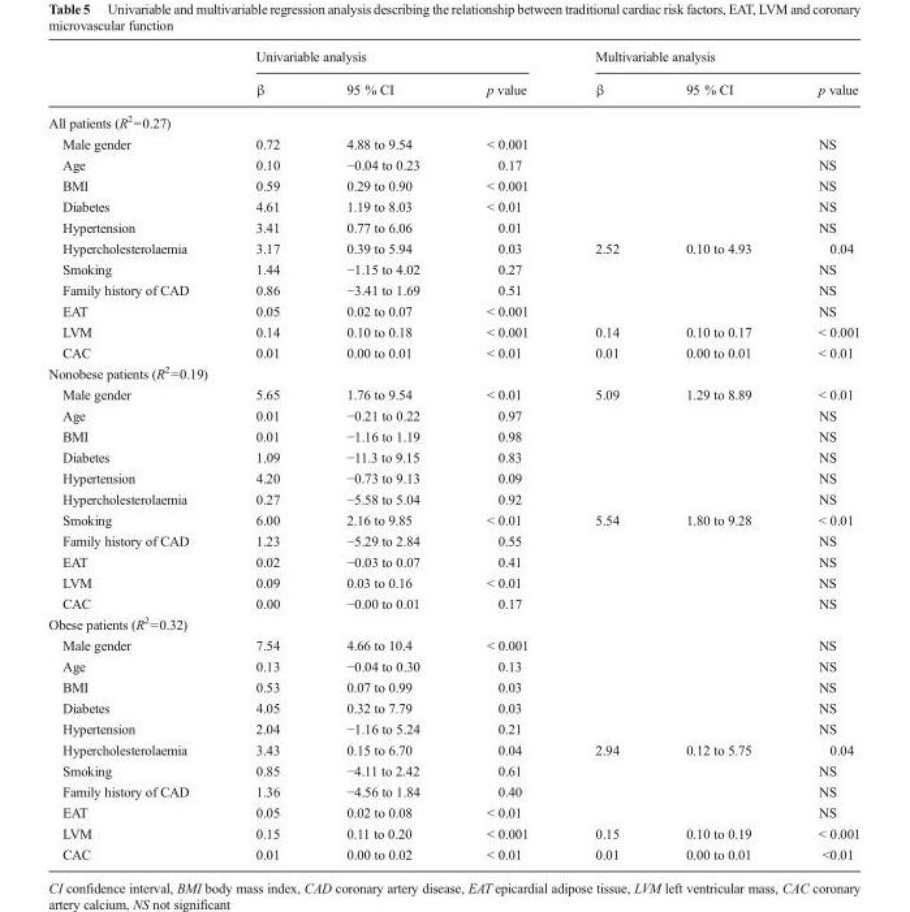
<table><thead><tr><td rowspan="2"></td><td colspan="3">Univariable analysis</td><td colspan="3">Multivariable analysis</td></tr><tr><td>β</td><td>95 % CI</td><td>p value</td><td>β</td><td>95 % CI</td><td>p value</td></tr></thead><tbody><tr><td colspan="7">All patients (R<sup>2</sup>=0.27)</td></tr><tr><td>Male gender</td><td>0.72</td><td>4.88 to 9.54</td><td>&lt; 0.001</td><td></td><td></td><td>NS</td></tr><tr><td>Age</td><td>0.10</td><td>−0.04 to 0.23</td><td>0.17</td><td></td><td></td><td>NS</td></tr><tr><td>BMI</td><td>0.59</td><td>0.29 to 0.90</td><td>&lt; 0.001</td><td></td><td></td><td>NS</td></tr><tr><td>Diabetes</td><td>4.61</td><td>1.19 to 8.03</td><td>&lt; 0.01</td><td></td><td></td><td>NS</td></tr><tr><td>Hypertension</td><td>3.41</td><td>0.77 to 6.06</td><td>0.01</td><td></td><td></td><td>NS</td></tr><tr><td>Hypercholesterolaemia</td><td>3.17</td><td>0.39 to 5.94</td><td>0.03</td><td>2.52</td><td>0.10 to 4.93</td><td>0.04</td></tr><tr><td>Smoking</td><td>1.44</td><td>−1.15 to 4.02</td><td>0.27</td><td></td><td></td><td>NS</td></tr><tr><td>Family history of CAD</td><td>0.86</td><td>−3.41 to 1.69</td><td>0.51</td><td></td><td></td><td>NS</td></tr><tr><td>EAT</td><td>0.05</td><td>0.02 to 0.07</td><td>&lt; 0.001</td><td></td><td></td><td>NS</td></tr><tr><td>LVM</td><td>0.14</td><td>0.10 to 0.18</td><td>&lt; 0.001</td><td>0.14</td><td>0.10 to 0.17</td><td>&lt; 0.001</td></tr><tr><td>CAC</td><td>0.01</td><td>0.00 to 0.01</td><td>&lt; 0.01</td><td>0.01</td><td>0.00 to 0.01</td><td>&lt; 0.01</td></tr><tr><td colspan="7">Nonobese patients (R<sup>2</sup>=0.19)</td></tr><tr><td>Male gender</td><td>5.65</td><td>1.76 to 9.54</td><td>&lt; 0.01</td><td>5.09</td><td>1.29 to 8.89</td><td>&lt; 0.01</td></tr><tr><td>Age</td><td>0.01</td><td>−0.21 to 0.22</td><td>0.97</td><td></td><td></td><td>NS</td></tr><tr><td>BMI</td><td>0.01</td><td>−1.16 to 1.19</td><td>0.98</td><td></td><td></td><td>NS</td></tr><tr><td>Diabetes</td><td>1.09</td><td>−11.3 to 9.15</td><td>0.83</td><td></td><td></td><td>NS</td></tr><tr><td>Hypertension</td><td>4.20</td><td>−0.73 to 9.13</td><td>0.09</td><td></td><td></td><td>NS</td></tr><tr><td>Hypercholesterolaemia</td><td>0.27</td><td>−5.58 to 5.04</td><td>0.92</td><td></td><td></td><td>NS</td></tr><tr><td>Smoking</td><td>6.00</td><td>2.16 to 9.85</td><td>&lt; 0.01</td><td>5.54</td><td>1.80 to 9.28</td><td>&lt; 0.01</td></tr><tr><td>Family history of CAD</td><td>1.23</td><td>−5.29 to 2.84</td><td>0.55</td><td></td><td></td><td>NS</td></tr><tr><td>EAT</td><td>0.02</td><td>−0.03 to 0.07</td><td>0.41</td><td></td><td></td><td>NS</td></tr><tr><td>LVM</td><td>0.09</td><td>0.03 to 0.16</td><td>&lt; 0.01</td><td></td><td></td><td>NS</td></tr><tr><td>CAC</td><td>0.00</td><td>−0.00 to 0.01</td><td>0.17</td><td></td><td></td><td>NS</td></tr><tr><td colspan="7">Obese patients (R<sup>2</sup>=0.32)</td></tr><tr><td>Male gender</td><td>7.54</td><td>4.66 to 10.4</td><td>&lt; 0.001</td><td></td><td></td><td>NS</td></tr><tr><td>Age</td><td>0.13</td><td>−0.04 to 0.30</td><td>0.13</td><td></td><td></td><td>NS</td></tr><tr><td>BMI</td><td>0.53</td><td>0.07 to 0.99</td><td>0.03</td><td></td><td></td><td>NS</td></tr><tr><td>Diabetes</td><td>4.05</td><td>0.32 to 7.79</td><td>0.03</td><td></td><td></td><td>NS</td></tr><tr><td>Hypertension</td><td>2.04</td><td>−1.16 to 5.24</td><td>0.21</td><td></td><td></td><td>NS</td></tr><tr><td>Hypercholesterolaemia</td><td>3.43</td><td>0.15 to 6.70</td><td>0.04</td><td>2.94</td><td>0.12 to 5.75</td><td>0.04</td></tr><tr><td>Smoking</td><td>0.85</td><td>−4.11 to 2.42</td><td>0.61</td><td></td><td></td><td>NS</td></tr><tr><td>Family history of CAD</td><td>1.36</td><td>−4.56 to 1.84</td><td>0.40</td><td></td><td></td><td>NS</td></tr><tr><td>EAT</td><td>0.05</td><td>0.02 to 0.08</td><td>&lt; 0.01</td><td></td><td></td><td>NS</td></tr><tr><td>LVM</td><td>0.15</td><td>0.11 to 0.20</td><td>&lt; 0.001</td><td>0.15</td><td>0.10 to 0.19</td><td>&lt; 0.001</td></tr><tr><td>CAC</td><td>0.01</td><td>0.00 to 0.02</td><td>&lt; 0.01</td><td>0.01</td><td>0.00 to 0.01</td><td>&lt;0.01</td></tr></tbody></table>